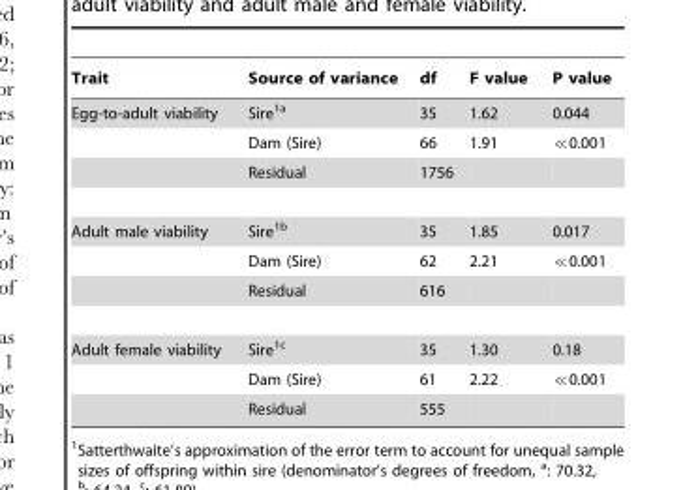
<table><thead><tr><td>Trait</td><td>Source of variance</td><td>df</td><td>F value</td><td>P value</td></tr></thead><tbody><tr><td rowspan="3">Egg-to-adult viability</td><td>Sire1a</td><td>35</td><td>1.62</td><td>0.044</td></tr><tr><td>Dam (Sire)</td><td>66</td><td>1.91</td><td>≪0.001</td></tr><tr><td>Residual</td><td>1756</td><td></td><td></td></tr><tr><td rowspan="3">Adult male viability</td><td>Sire1b</td><td>35</td><td>1.85</td><td>0.017</td></tr><tr><td>Dam (Sire)</td><td>62</td><td>2.21</td><td>≪0.001</td></tr><tr><td>Residual</td><td>616</td><td></td><td></td></tr><tr><td rowspan="3">Adult female viability</td><td>Sire1c</td><td>35</td><td>1.30</td><td>0.18</td></tr><tr><td>Dam (Sire)</td><td>61</td><td>2.22</td><td>≪0.001</td></tr><tr><td>Residual</td><td>555</td><td></td><td></td></tr></tbody></table>